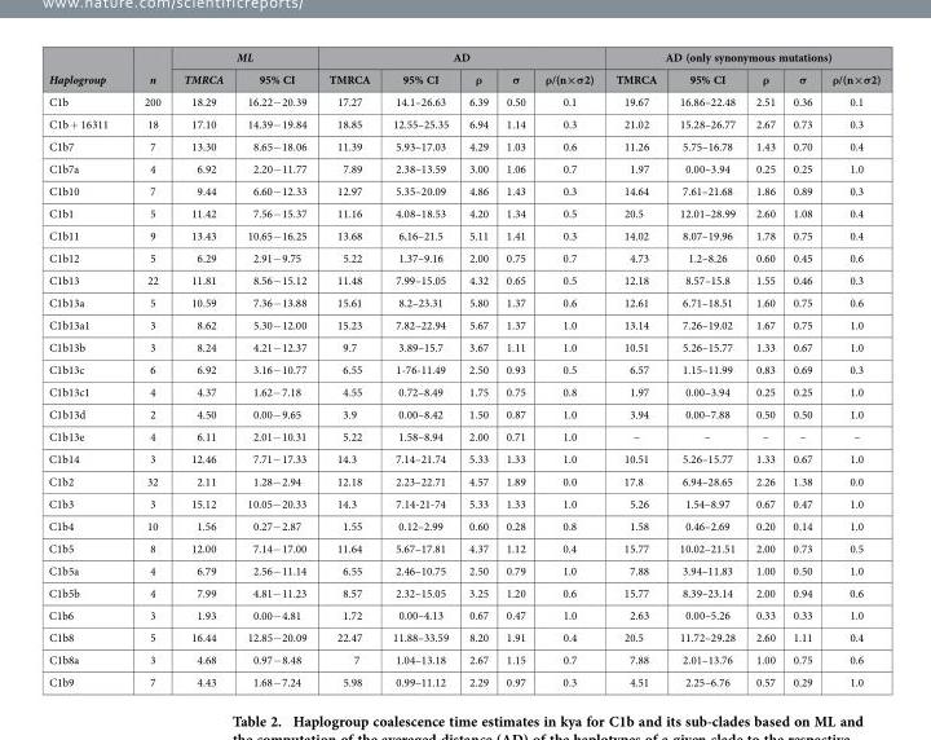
<table><thead><tr><td rowspan="2">Haplogroup</td><td rowspan="2">n</td><td colspan="2">ML</td><td colspan="5">AD</td><td colspan="5">AD (only synonymous mutations)</td></tr><tr><td>TMRCA</td><td>95% CI</td><td>TMRCA</td><td>95% CI</td><td>ρ</td><td>σ</td><td>ρ/(n×σ2)</td><td>TMRCA</td><td>95% CI</td><td>ρ</td><td>σ</td><td>ρ/(n×σ2)</td></tr></thead><tbody><tr><td>C1b</td><td>200</td><td>18.29</td><td>16.22− 20.39</td><td>17.27</td><td>14.1–26.63</td><td>6.39</td><td>0.50</td><td>0.1</td><td>19.67</td><td>16.86–22.48</td><td>2.51</td><td>0.36</td><td>0.1</td></tr><tr><td>C1b + 16311</td><td>18</td><td>17.10</td><td>14.39− 19.84</td><td>18.85</td><td>12.55–25.35</td><td>6.94</td><td>1.14</td><td>0.3</td><td>21.02</td><td>15.28–26.77</td><td>2.67</td><td>0.73</td><td>0.3</td></tr><tr><td>C1b7</td><td>7</td><td>13.30</td><td>8.65− 18.06</td><td>11.39</td><td>5.93–17.03</td><td>4.29</td><td>1.03</td><td>0.6</td><td>11.26</td><td>5.75–16.78</td><td>1.43</td><td>0.70</td><td>0.4</td></tr><tr><td>C1b7a</td><td>4</td><td>6.92</td><td>2.20− 11.77</td><td>7.89</td><td>2.38–13.59</td><td>3.00</td><td>1.06</td><td>0.7</td><td>1.97</td><td>0.00–3.94</td><td>0.25</td><td>0.25</td><td>1.0</td></tr><tr><td>C1b10</td><td>7</td><td>9.44</td><td>6.60− 12.33</td><td>12.97</td><td>5.35–20.09</td><td>4.86</td><td>1.43</td><td>0.3</td><td>14.64</td><td>7.61–21.68</td><td>1.86</td><td>0.89</td><td>0.3</td></tr><tr><td>C1b1</td><td>5</td><td>11.42</td><td>7.56− 15.37</td><td>11.16</td><td>4.08–18.53</td><td>4.20</td><td>1.34</td><td>0.5</td><td>20.5</td><td>12.01–28.99</td><td>2.60</td><td>1.08</td><td>0.4</td></tr><tr><td>C1b11</td><td>9</td><td>13.43</td><td>10.65− 16.25</td><td>13.68</td><td>6,16–21.5</td><td>5.11</td><td>1.41</td><td>0.3</td><td>14.02</td><td>8.07–19.96</td><td>1.78</td><td>0.75</td><td>0.4</td></tr><tr><td>C1b12</td><td>5</td><td>6.29</td><td>2.91− 9.75</td><td>5.22</td><td>1.37–9.16</td><td>2.00</td><td>0.75</td><td>0.7</td><td>4.73</td><td>1.2–8.26</td><td>0.60</td><td>0.45</td><td>0.6</td></tr><tr><td>C1b13</td><td>22</td><td>11.81</td><td>8.56− 15.12</td><td>11.48</td><td>7.99–15.05</td><td>4.32</td><td>0.65</td><td>0.5</td><td>12.18</td><td>8.57–15.8</td><td>1.55</td><td>0.46</td><td>0.3</td></tr><tr><td>C1b13a</td><td>5</td><td>10.59</td><td>7.36− 13.88</td><td>15.61</td><td>8.2–23.31</td><td>5.80</td><td>1.37</td><td>0.6</td><td>12.61</td><td>6.71–18.51</td><td>1.60</td><td>0.75</td><td>0.6</td></tr><tr><td>C1b13a1</td><td>3</td><td>8.62</td><td>5.30− 12.00</td><td>15.23</td><td>7.82–22.94</td><td>5.67</td><td>1.37</td><td>1.0</td><td>13.14</td><td>7.26–19.02</td><td>1.67</td><td>0.75</td><td>1.0</td></tr><tr><td>C1b13b</td><td>3</td><td>8.24</td><td>4.21− 12.37</td><td>9.7</td><td>3.89–15.7</td><td>3.67</td><td>1.11</td><td>1.0</td><td>10.51</td><td>5.26–15.77</td><td>1.33</td><td>0.67</td><td>1.0</td></tr><tr><td>C1b13c</td><td>6</td><td>6.92</td><td>3.16− 10.77</td><td>6.55</td><td>1-76-11.49</td><td>2.50</td><td>0.93</td><td>0.5</td><td>6.57</td><td>1.15–11.99</td><td>0.83</td><td>0.69</td><td>0.3</td></tr><tr><td>C1b13c1</td><td>4</td><td>4.37</td><td>1.62− 7.18</td><td>4.55</td><td>0.72–8.49</td><td>1.75</td><td>0.75</td><td>0.8</td><td>1.97</td><td>0.00–3.94</td><td>0.25</td><td>0.25</td><td>1.0</td></tr><tr><td>C1b13d</td><td>2</td><td>4.50</td><td>0.00− 9.65</td><td>3.9</td><td>0.00–8.42</td><td>1.50</td><td>0.87</td><td>1.0</td><td>3.94</td><td>0.00–7.88</td><td>0.50</td><td>0.50</td><td>1.0</td></tr><tr><td>C1b13e</td><td>4</td><td>6.11</td><td>2.01− 10.31</td><td>5.22</td><td>1.58–8.94</td><td>2.00</td><td>0.71</td><td>1.0</td><td>–</td><td>–</td><td>–</td><td>–</td><td>–</td></tr><tr><td>C1b14</td><td>3</td><td>12.46</td><td>7.71− 17.33</td><td>14.3</td><td>7.14–21.74</td><td>5.33</td><td>1.33</td><td>1.0</td><td>10.51</td><td>5.26–15.77</td><td>1.33</td><td>0.67</td><td>1.0</td></tr><tr><td>C1b2</td><td>32</td><td>2.11</td><td>1.28− 2.94</td><td>12.18</td><td>2.23–22.71</td><td>4.57</td><td>1.89</td><td>0.0</td><td>17.8</td><td>6.94–28.65</td><td>2.26</td><td>1.38</td><td>0.0</td></tr><tr><td>C1b3</td><td>3</td><td>15.12</td><td>10.05− 20.33</td><td>14.3</td><td>7.14-21-74</td><td>5.33</td><td>1.33</td><td>1.0</td><td>5.26</td><td>1.54–8.97</td><td>0.67</td><td>0.47</td><td>1.0</td></tr><tr><td>C1b4</td><td>10</td><td>1.56</td><td>0.27− 2.87</td><td>1.55</td><td>0.12–2.99</td><td>0.60</td><td>0.28</td><td>0.8</td><td>1.58</td><td>0.46–2.69</td><td>0.20</td><td>0.14</td><td>1.0</td></tr><tr><td>C1b5</td><td>8</td><td>12.00</td><td>7.14− 17.00</td><td>11.64</td><td>5.67–17.81</td><td>4.37</td><td>1.12</td><td>0.4</td><td>15.77</td><td>10.02–21.51</td><td>2.00</td><td>0.73</td><td>0.5</td></tr><tr><td>C1b5a</td><td>4</td><td>6.79</td><td>2.56− 11.14</td><td>6.55</td><td>2.46–10.75</td><td>2.50</td><td>0.79</td><td>1.0</td><td>7.88</td><td>3.94–11.83</td><td>1.00</td><td>0.50</td><td>1.0</td></tr><tr><td>C1b5b</td><td>4</td><td>7.99</td><td>4.81− 11.23</td><td>8.57</td><td>2.32–15.05</td><td>3.25</td><td>1.20</td><td>0.6</td><td>15.77</td><td>8.39–23.14</td><td>2.00</td><td>0.94</td><td>0.6</td></tr><tr><td>C1b6</td><td>3</td><td>1.93</td><td>0.00− 4.81</td><td>1.72</td><td>0.00–4.13</td><td>0.67</td><td>0.47</td><td>1.0</td><td>2.63</td><td>0.00–5.26</td><td>0.33</td><td>0.33</td><td>1.0</td></tr><tr><td>C1b8</td><td>5</td><td>16.44</td><td>12.85− 20.09</td><td>22.47</td><td>11.88–33.59</td><td>8.20</td><td>1.91</td><td>0.4</td><td>20.5</td><td>11.72–29.28</td><td>2.60</td><td>1.11</td><td>0.4</td></tr><tr><td>C1b8a</td><td>3</td><td>4.68</td><td>0.97− 8.48</td><td>7</td><td>1.04–13.18</td><td>2.67</td><td>1.15</td><td>0.7</td><td>7.88</td><td>2.01–13.76</td><td>1.00</td><td>0.75</td><td>0.6</td></tr><tr><td>C1b9</td><td>7</td><td>4.43</td><td>1.68− 7.24</td><td>5.98</td><td>0.99–11.12</td><td>2.29</td><td>0.97</td><td>0.3</td><td>4.51</td><td>2.25–6.76</td><td>0.57</td><td>0.29</td><td>1.0</td></tr></tbody></table>